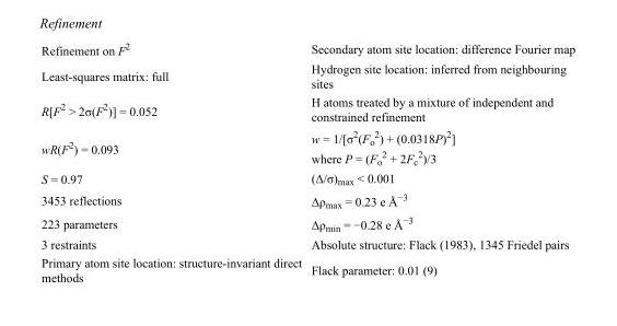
<table><tbody><tr><td>Refinement on F<sup>2</sup></td><td>Secondary atom site location: difference Fourier map</td></tr><tr><td>Least-squares matrix: full</td><td>Hydrogen site location: inferred from neighbouring sites</td></tr><tr><td>R[F<sup>2</sup> &gt; 2σ(F<sup>2</sup>)] = 0.052</td><td>H atoms treated by a mixture of independent and constrained refinement</td></tr><tr><td>wR(F<sup>2</sup>) = 0.093</td><td>w = 1/[σ<sup>2</sup>(F<sub>o</sub> <sup>2</sup>) + (0.0318P)<sup>2</sup>] where P = (F<sub>o</sub> <sup>2</sup> + 2F<sub>c</sub> <sup>2</sup>)/3</td></tr><tr><td>S = 0.97</td><td>(Δ/σ)<sub>max</sub> &lt; 0.001</td></tr><tr><td>3453 reflections</td><td>Δρ<sub>max</sub> = 0.23 e Å<sup>−3</sup></td></tr><tr><td>223 parameters</td><td>Δρ<sub>min</sub> = −0.28 e Å<sup>−3</sup></td></tr><tr><td>3 restraints</td><td>Absolute structure: Flack (1983), 1345 Friedel pairs</td></tr><tr><td>Primary atom site location: structure-invariant direct methods</td><td>Flack parameter: 0.01 (9)</td></tr></tbody></table>